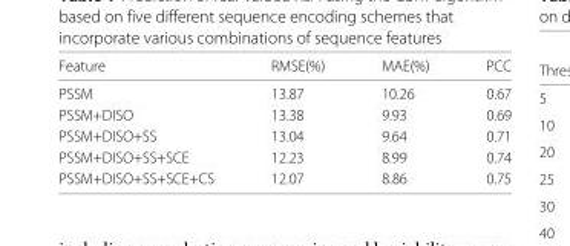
<table><thead><tr><td>Feature</td><td>RMSE(%)</td><td>MAE(%)</td><td>PCC</td></tr></thead><tbody><tr><td>PSSM</td><td>13.87</td><td>10.26</td><td>0.67</td></tr><tr><td>PSSM+DISO</td><td>13.38</td><td>9.93</td><td>0.69</td></tr><tr><td>PSSM+DISO+SS</td><td>13.04</td><td>9.64</td><td>0.71</td></tr><tr><td>PSSM+DISO+SS+SCE</td><td>12.23</td><td>8.99</td><td>0.74</td></tr><tr><td>PSSM+DISO+SS+SCE+CS</td><td>12.07</td><td>8.86</td><td>0.75</td></tr></tbody></table>